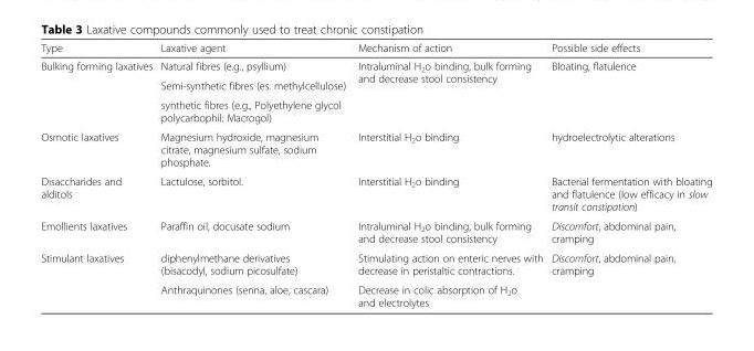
<table><thead><tr><td>Type</td><td>Laxative agent</td><td>Mechanism of action</td><td>Possible side effects</td></tr></thead><tbody><tr><td rowspan="3">Bulking forming laxatives</td><td>Natural fibres (e.g., psyllium)</td><td rowspan="3">Intraluminal H<sub>2</sub>o binding, bulk forming and decrease stool consistency</td><td rowspan="3">Bloating, flatulence</td></tr><tr><td>Semi-synthetic fibres (es. methylcellulose)</td></tr><tr><td>synthetic fibres (e.g., Polyethylene glycol polycarbophil: Macrogol)</td></tr><tr><td>Osmotic laxatives</td><td>Magnesium hydroxide, magnesium citrate, magnesium sulfate, sodium phosphate.</td><td>Interstitial H<sub>2</sub>o binding</td><td>hydroelectrolytic alterations</td></tr><tr><td>Disaccharides and alditols</td><td>Lactulose, sorbitol.</td><td>Interstitial H<sub>2</sub>o binding</td><td>Bacterial fermentation with bloating and flatulence (low efficacy in slow transit constipation)</td></tr><tr><td>Emollients laxatives</td><td>Paraffin oil, docusate sodium</td><td>Intraluminal H<sub>2</sub>o binding, bulk forming and decrease stool consistency</td><td>Discomfort, abdominal pain, cramping</td></tr><tr><td rowspan="2">Stimulant laxatives</td><td>diphenylmethane derivatives (bisacodyl, sodium picosulfate)</td><td>Stimulating action on enteric nerves with decrease in peristaltic contractions.</td><td rowspan="2">Discomfort, abdominal pain, cramping</td></tr><tr><td>Anthraquinones (senna, aloe, cascara)</td><td>Decrease in colic absorption of H<sub>2</sub>o and electrolytes</td></tr></tbody></table>